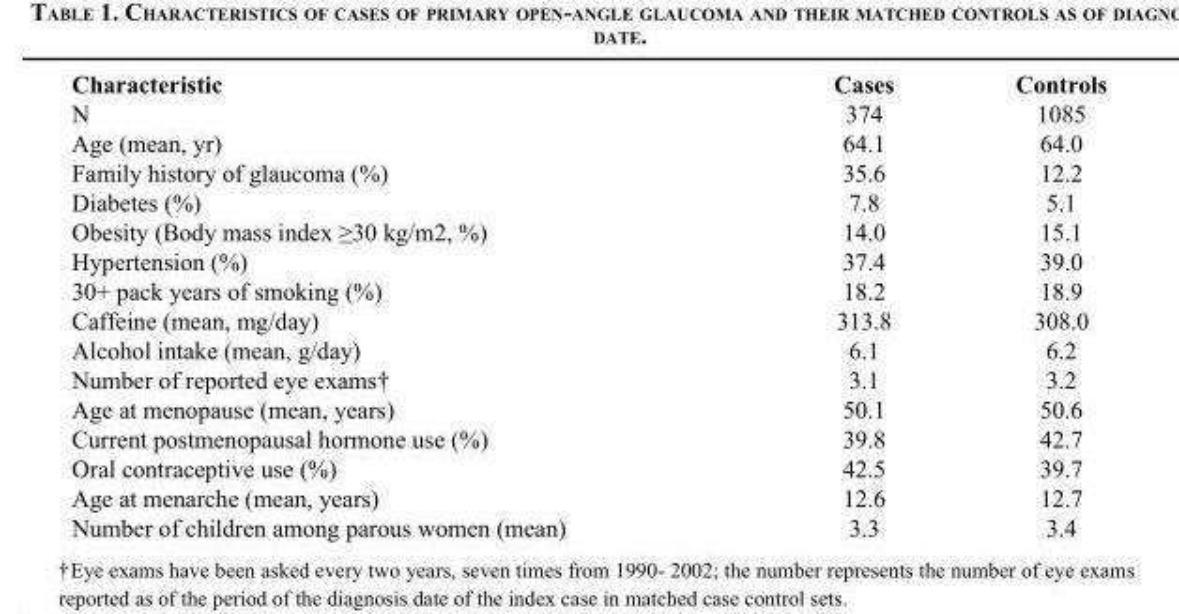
<table><thead><tr><td>Characteristic</td><td>Cases</td><td>Controls</td></tr></thead><tbody><tr><td>N</td><td>374</td><td>1085</td></tr><tr><td>Age (mean, yr)</td><td>64.1</td><td>64.0</td></tr><tr><td>Family history of glaucoma (%)</td><td>35.6</td><td>12.2</td></tr><tr><td>Diabetes (%)</td><td>7.8</td><td>5.1</td></tr><tr><td>Obesity (Body mass index ≥30 kg/m2, %)</td><td>14.0</td><td>15.1</td></tr><tr><td>Hypertension (%)</td><td>37.4</td><td>39.0</td></tr><tr><td>30+ pack years of smoking (%)</td><td>18.2</td><td>18.9</td></tr><tr><td>Caffeine (mean, mg/day)</td><td>313.8</td><td>308.0</td></tr><tr><td>Alcohol intake (mean, g/day)</td><td>6.1</td><td>6.2</td></tr><tr><td>Number of reported eye exams†</td><td>3.1</td><td>3.2</td></tr><tr><td>Age at menopause (mean, years)</td><td>50.1</td><td>50.6</td></tr><tr><td>Current postmenopausal hormone use (%)</td><td>39.8</td><td>42.7</td></tr><tr><td>Oral contraceptive use (%)</td><td>42.5</td><td>39.7</td></tr><tr><td>Age at menarche (mean, years)</td><td>12.6</td><td>12.7</td></tr><tr><td>Number of children among parous women (mean)</td><td>3.3</td><td>3.4</td></tr></tbody></table>